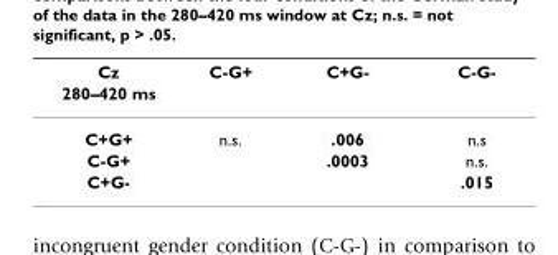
<table><thead><tr><td rowspan="2">Cz 280–420 ms</td><td rowspan="2">C-G+</td><td rowspan="2">C+G-</td><td rowspan="2">C-G-</td></tr><tr></tr></thead><tbody><tr><td>C+G+</td><td>n.s.</td><td>.006</td><td>n.s</td></tr><tr><td>C-G+</td><td></td><td>.0003</td><td>n.s.</td></tr><tr><td>C+G-</td><td></td><td></td><td>.015</td></tr></tbody></table>